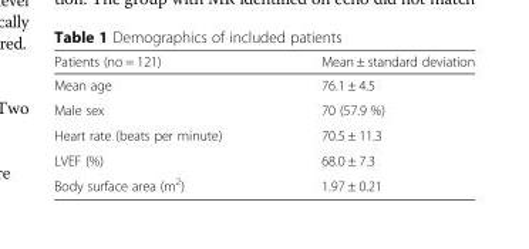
<table><thead><tr><td>Patients (no = 121)</td><td>Mean ± standard deviation</td></tr></thead><tbody><tr><td>Mean age</td><td>76.1 ± 4.5</td></tr><tr><td>Male sex</td><td>70 (57.9 %)</td></tr><tr><td>Heart rate (beats per minute)</td><td>70.5 ± 11.3</td></tr><tr><td>LVEF (%)</td><td>68.0 ± 7.3</td></tr><tr><td>Body surface area (m<sup>2</sup>)</td><td>1.97 ± 0.21</td></tr></tbody></table>